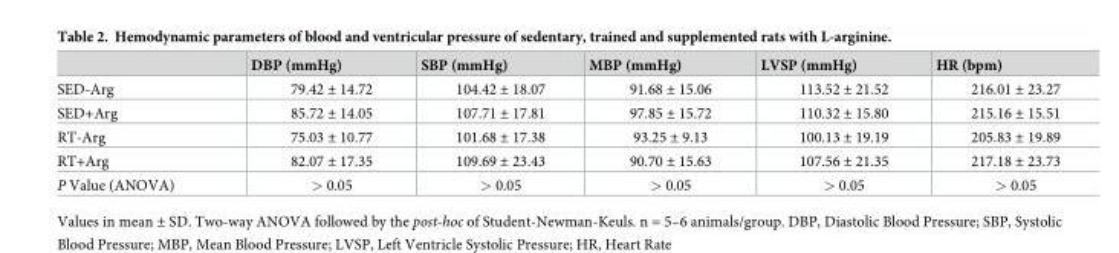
<table><thead><tr><td></td><td>DBP (mmHg)</td><td>SBP (mmHg)</td><td>MBP (mmHg)</td><td>LVSP (mmHg)</td><td>HR (bpm)</td></tr></thead><tbody><tr><td>SED-Arg</td><td>79.42 ± 14.72</td><td>104.42 ± 18.07</td><td>91.68 ± 15.06</td><td>113.52 ± 21.52</td><td>216.01 ± 23.27</td></tr><tr><td>SED+Arg</td><td>85.72 ± 14.05</td><td>107.71 ± 17.81</td><td>97.85 ± 15.72</td><td>110.32 ± 15.80</td><td>215.16 ± 15.51</td></tr><tr><td>RT-Arg</td><td>75.03 ± 10.77</td><td>101.68 ± 17.38</td><td>93.25 ± 9.13</td><td>100.13 ± 19.19</td><td>205.83 ± 19.89</td></tr><tr><td>RT+Arg</td><td>82.07 ± 17.35</td><td>109.69 ± 23.43</td><td>90.70 ± 15.63</td><td>107.56 ± 21.35</td><td>217.18 ± 23.73</td></tr><tr><td>P Value (ANOVA)</td><td>&gt; 0.05</td><td>&gt; 0.05</td><td>&gt; 0.05</td><td>&gt; 0.05</td><td>&gt; 0.05</td></tr></tbody></table>